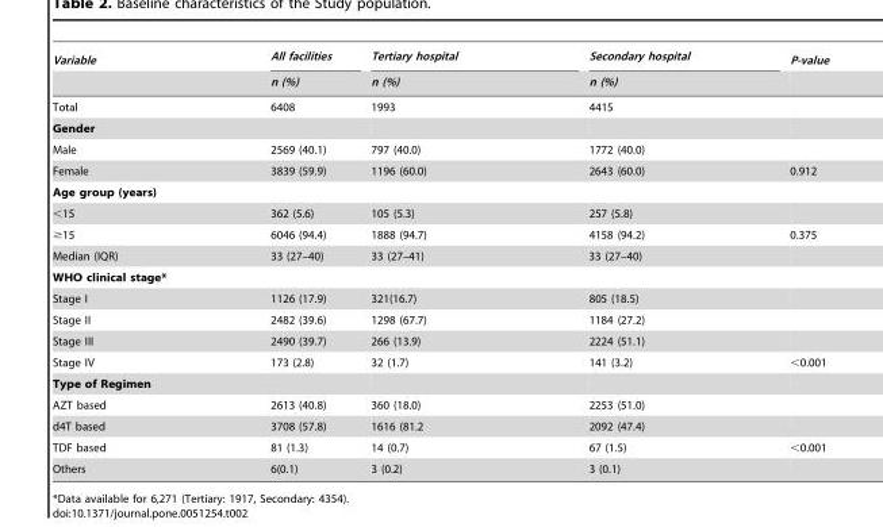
<table><thead><tr><td rowspan="2">Variable</td><td rowspan="2">All facilities n (%)</td><td rowspan="2">Tertiary hospital n (%)</td><td rowspan="2">Secondary hospital n (%)</td><td rowspan="2">P-value</td></tr><tr></tr></thead><tbody><tr><td>Total</td><td>6408</td><td>1993</td><td>4415</td><td></td></tr><tr><td colspan="5">Gender</td></tr><tr><td>Male</td><td>2569 (40.1)</td><td>797 (40.0)</td><td>1772 (40.0)</td><td></td></tr><tr><td>Female</td><td>3839 (59.9)</td><td>1196 (60.0)</td><td>2643 (60.0)</td><td>0.912</td></tr><tr><td colspan="5">Age group (years)</td></tr><tr><td>&lt;15</td><td>362 (5.6)</td><td>105 (5.3)</td><td>257 (5.8)</td><td></td></tr><tr><td>≥15</td><td>6046 (94.4)</td><td>1888 (94.7)</td><td>4158 (94.2)</td><td>0.375</td></tr><tr><td>Median (IQR)</td><td>33 (27–40)</td><td>33 (27–41)</td><td>33 (27–40)</td><td></td></tr><tr><td colspan="5">WHO clinical stage*</td></tr><tr><td>Stage I</td><td>1126 (17.9)</td><td>321(16.7)</td><td>805 (18.5)</td><td></td></tr><tr><td>Stage II</td><td>2482 (39.6)</td><td>1298 (67.7)</td><td>1184 (27.2)</td><td></td></tr><tr><td>Stage III</td><td>2490 (39.7)</td><td>266 (13.9)</td><td>2224 (51.1)</td><td></td></tr><tr><td>Stage IV</td><td>173 (2.8)</td><td>32 (1.7)</td><td>141 (3.2)</td><td>&lt;0.001</td></tr><tr><td colspan="5">Type of Regimen</td></tr><tr><td>AZT based</td><td>2613 (40.8)</td><td>360 (18.0)</td><td>2253 (51.0)</td><td></td></tr><tr><td>d4T based</td><td>3708 (57.8)</td><td>1616 (81.2</td><td>2092 (47.4)</td><td></td></tr><tr><td>TDF based</td><td>81 (1.3)</td><td>14 (0.7)</td><td>67 (1.5)</td><td>&lt;0.001</td></tr><tr><td>Others</td><td>6(0.1)</td><td>3 (0.2)</td><td>3 (0.1)</td><td></td></tr></tbody></table>